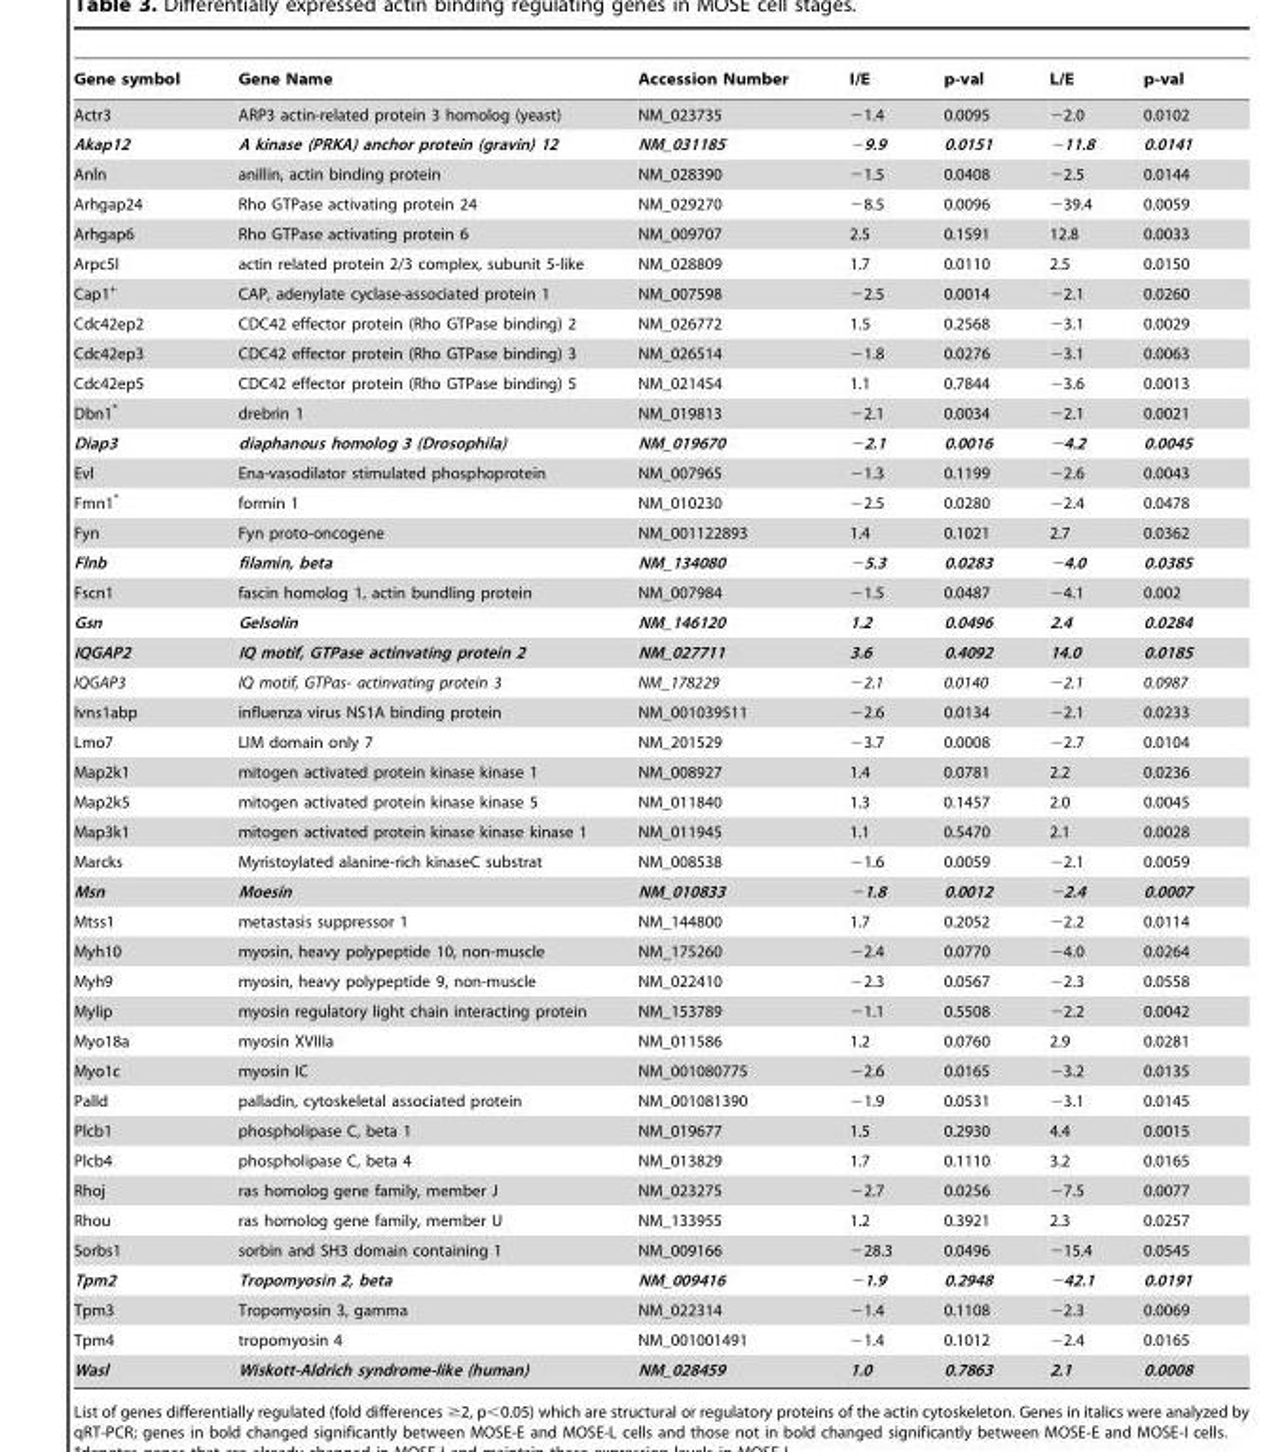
<table><thead><tr><td>Gene symbol</td><td>Gene Name</td><td>Accession Number</td><td>I/E</td><td>p-val</td><td>L/E</td><td>p-val</td></tr></thead><tbody><tr><td>Actr3</td><td>ARP3 actin-related protein 3 homolog (yeast)</td><td>NM_023735</td><td>−1.4</td><td>0.0095</td><td>−2.0</td><td>0.0102</td></tr><tr><td>Akap12</td><td>A kinase (PRKA) anchor protein (gravin) 12</td><td>NM_031185</td><td>−9.9</td><td>0.0151</td><td>−11.8</td><td>0.0141</td></tr><tr><td>Anln</td><td>anillin, actin binding protein</td><td>NM_028390</td><td>−1.5</td><td>0.0408</td><td>−2.5</td><td>0.0144</td></tr><tr><td>Arhgap24</td><td>Rho GTPase activating protein 24</td><td>NM_029270</td><td>−8.5</td><td>0.0096</td><td>−39.4</td><td>0.0059</td></tr><tr><td>Arhgap6</td><td>Rho GTPase activating protein 6</td><td>NM_009707</td><td>2.5</td><td>0.1591</td><td>12.8</td><td>0.0033</td></tr><tr><td>Arpc5l</td><td>actin related protein 2/3 complex, subunit 5-like</td><td>NM_028809</td><td>1.7</td><td>0.0110</td><td>2.5</td><td>0.0150</td></tr><tr><td>Cap1<sup>+</sup></td><td>CAP, adenylate cyclase-associated protein 1</td><td>NM_007598</td><td>−2.5</td><td>0.0014</td><td>−2.1</td><td>0.0260</td></tr><tr><td>Cdc42ep2</td><td>CDC42 effector protein (Rho GTPase binding) 2</td><td>NM_026772</td><td>1.5</td><td>0.2568</td><td>−3.1</td><td>0.0029</td></tr><tr><td>Cdc42ep3</td><td>CDC42 effector protein (Rho GTPase binding) 3</td><td>NM_026514</td><td>−1.8</td><td>0.0276</td><td>−3.1</td><td>0.0063</td></tr><tr><td>Cdc42ep5</td><td>CDC42 effector protein (Rho GTPase binding) 5</td><td>NM_021454</td><td>1.1</td><td>0.7844</td><td>−3.6</td><td>0.0013</td></tr><tr><td>Dbn1*</td><td>drebrin 1</td><td>NM_019813</td><td>−2.1</td><td>0.0034</td><td>−2.1</td><td>0.0021</td></tr><tr><td>Diap3</td><td>diaphanous homolog 3 (Drosophila)</td><td>NM_019670</td><td>−2.1</td><td>0.0016</td><td>−4.2</td><td>0.0045</td></tr><tr><td>Evl</td><td>Ena-vasodilator stimulated phosphoprotein</td><td>NM_007965</td><td>−1.3</td><td>0.1199</td><td>−2.6</td><td>0.0043</td></tr><tr><td>Fmn1*</td><td>formin 1</td><td>NM_010230</td><td>−2.5</td><td>0.0280</td><td>−2.4</td><td>0.0478</td></tr><tr><td>Fyn</td><td>Fyn proto-oncogene</td><td>NM_001122893</td><td>1.4</td><td>0.1021</td><td>2.7</td><td>0.0362</td></tr><tr><td>Flnb</td><td>filamin, beta</td><td>NM_134080</td><td>−5.3</td><td>0.0283</td><td>−4.0</td><td>0.0385</td></tr><tr><td>Fscn1</td><td>fascin homolog 1, actin bundling protein</td><td>NM_007984</td><td>−1.5</td><td>0.0487</td><td>−4.1</td><td>0.002</td></tr><tr><td>Gsn</td><td>Gelsolin</td><td>NM_146120</td><td>1.2</td><td>0.0496</td><td>2.4</td><td>0.0284</td></tr><tr><td>IQGAP2</td><td>IQ motif, GTPase actinvating protein 2</td><td>NM_027711</td><td>3.6</td><td>0.4092</td><td>14.0</td><td>0.0185</td></tr><tr><td>IQGAP3</td><td>IQ motif, GTPas- actinvating protein 3</td><td>NM_178229</td><td>−2.1</td><td>0.0140</td><td>−2.1</td><td>0.0987</td></tr><tr><td>Ivns1abp</td><td>influenza virus NS1A binding protein</td><td>NM_001039511</td><td>−2.6</td><td>0.0134</td><td>−2.1</td><td>0.0233</td></tr><tr><td>Lmo7</td><td>LIM domain only 7</td><td>NM_201529</td><td>−3.7</td><td>0.0008</td><td>−2.7</td><td>0.0104</td></tr><tr><td>Map2k1</td><td>mitogen activated protein kinase kinase 1</td><td>NM_008927</td><td>1.4</td><td>0.0781</td><td>2.2</td><td>0.0236</td></tr><tr><td>Map2k5</td><td>mitogen activated protein kinase kinase 5</td><td>NM_011840</td><td>1.3</td><td>0.1457</td><td>2.0</td><td>0.0045</td></tr><tr><td>Map3k1</td><td>mitogen activated protein kinase kinase kinase 1</td><td>NM_011945</td><td>1.1</td><td>0.5470</td><td>2.1</td><td>0.0028</td></tr><tr><td>Marcks</td><td>Myristoylated alanine-rich kinaseC substrat</td><td>NM_008538</td><td>−1.6</td><td>0.0059</td><td>−2.1</td><td>0.0059</td></tr><tr><td>Msn</td><td>Moesin</td><td>NM_010833</td><td>−1.8</td><td>0.0012</td><td>−2.4</td><td>0.0007</td></tr><tr><td>Mtss1</td><td>metastasis suppressor 1</td><td>NM_144800</td><td>1.7</td><td>0.2052</td><td>−2.2</td><td>0.0114</td></tr><tr><td>Myh10</td><td>myosin, heavy polypeptide 10, non-muscle</td><td>NM_175260</td><td>−2.4</td><td>0.0770</td><td>−4.0</td><td>0.0264</td></tr><tr><td>Myh9</td><td>myosin, heavy polypeptide 9, non-muscle</td><td>NM_022410</td><td>−2.3</td><td>0.0567</td><td>−2.3</td><td>0.0558</td></tr><tr><td>Mylip</td><td>myosin regulatory light chain interacting protein</td><td>NM_153789</td><td>−1.1</td><td>0.5508</td><td>−2.2</td><td>0.0042</td></tr><tr><td>Myo18a</td><td>myosin XVIIIa</td><td>NM_011586</td><td>1.2</td><td>0.0760</td><td>2.9</td><td>0.0281</td></tr><tr><td>Myo1c</td><td>myosin IC</td><td>NM_001080775</td><td>−2.6</td><td>0.0165</td><td>−3.2</td><td>0.0135</td></tr><tr><td>Palld</td><td>palladin, cytoskeletal associated protein</td><td>NM_001081390</td><td>−1.9</td><td>0.0531</td><td>−3.1</td><td>0.0145</td></tr><tr><td>Plcb1</td><td>phospholipase C, beta 1</td><td>NM_019677</td><td>1.5</td><td>0.2930</td><td>4.4</td><td>0.0015</td></tr><tr><td>Plcb4</td><td>phospholipase C, beta 4</td><td>NM_013829</td><td>1.7</td><td>0.1110</td><td>3.2</td><td>0.0165</td></tr><tr><td>Rhoj</td><td>ras homolog gene family, member J</td><td>NM_023275</td><td>−2.7</td><td>0.0256</td><td>−7.5</td><td>0.0077</td></tr><tr><td>Rhou</td><td>ras homolog gene family, member U</td><td>NM_133955</td><td>1.2</td><td>0.3921</td><td>2.3</td><td>0.0257</td></tr><tr><td>Sorbs1</td><td>sorbin and SH3 domain containing 1</td><td>NM_009166</td><td>−28.3</td><td>0.0496</td><td>−15.4</td><td>0.0545</td></tr><tr><td>Tpm2</td><td>Tropomyosin 2, beta</td><td>NM_009416</td><td>−1.9</td><td>0.2948</td><td>−42.1</td><td>0.0191</td></tr><tr><td>Tpm3</td><td>Tropomyosin 3, gamma</td><td>NM_022314</td><td>−1.4</td><td>0.1108</td><td>−2.3</td><td>0.0069</td></tr><tr><td>Tpm4</td><td>tropomyosin 4</td><td>NM_001001491</td><td>−1.4</td><td>0.1012</td><td>−2.4</td><td>0.0165</td></tr><tr><td>Wasl</td><td>Wiskott-Aldrich syndrome-like (human)</td><td>NM_028459</td><td>1.0</td><td>0.7863</td><td>2.1</td><td>0.0008</td></tr></tbody></table>